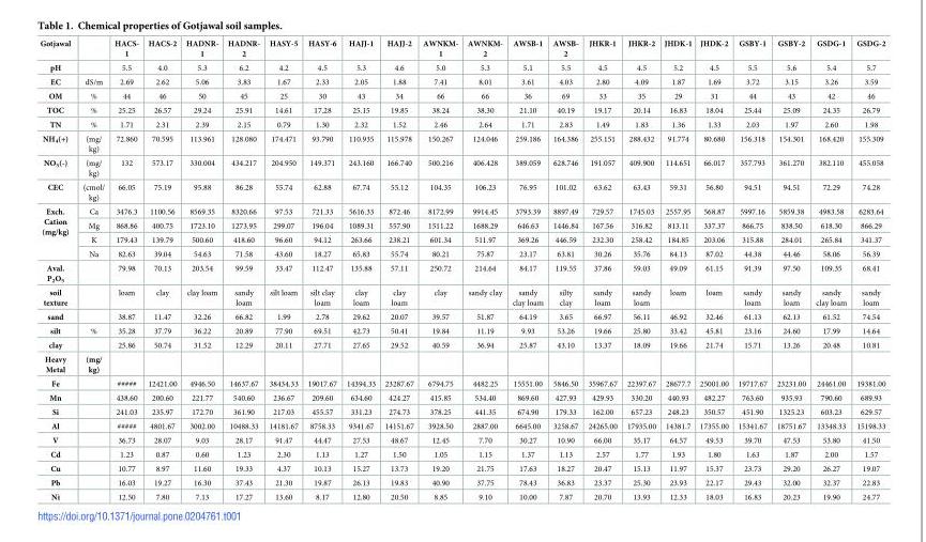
<table><thead><tr><td>Gotjawal</td><td></td><td>HACS- 1</td><td>HACS-2</td><td>HADNR- 1</td><td>HADNR- 2</td><td>HASY-5</td><td>HASY-6</td><td>HAJJ-1</td><td>HAJJ-2</td><td>AWNKM- 1</td><td>AWNKM- 2</td><td>AWSB-1</td><td>AWSB- 2</td><td>JHKR-1</td><td>JHKR-2</td><td>JHDK-1</td><td>JHDK-2</td><td>GSBY-1</td><td>GSBY-2</td><td>GSDG-1</td><td>GSDG-2</td></tr></thead><tbody><tr><td>pH</td><td></td><td>5.5</td><td>4.0</td><td>5.3</td><td>6.2</td><td>4.2</td><td>4.5</td><td>5.3</td><td>4.6</td><td>5.0</td><td>5.3</td><td>5.1</td><td>5.5</td><td>4.5</td><td>4.5</td><td>5.2</td><td>4.5</td><td>5.5</td><td>5.6</td><td>5.4</td><td>5.7</td></tr><tr><td>EC</td><td>dS/m</td><td>2.69</td><td>2.62</td><td>5.06</td><td>3.83</td><td>1.67</td><td>2.33</td><td>2.05</td><td>1.88</td><td>7.41</td><td>8.01</td><td>3.61</td><td>4.03</td><td>2.80</td><td>4.09</td><td>1.87</td><td>1.69</td><td>3.72</td><td>3.15</td><td>3.26</td><td>3.59</td></tr><tr><td>OM</td><td>%</td><td>44</td><td>46</td><td>50</td><td>45</td><td>25</td><td>30</td><td>43</td><td>34</td><td>66</td><td>66</td><td>36</td><td>69</td><td>33</td><td>35</td><td>29</td><td>31</td><td>44</td><td>43</td><td>42</td><td>46</td></tr><tr><td>TOC</td><td>%</td><td>25.25</td><td>26.57</td><td>29.24</td><td>25.91</td><td>14.61</td><td>17.28</td><td>25.15</td><td>19.85</td><td>38.24</td><td>38.30</td><td>21.10</td><td>40.19</td><td>19.17</td><td>20.14</td><td>16.83</td><td>18.04</td><td>25.44</td><td>25.09</td><td>24.35</td><td>26.79</td></tr><tr><td>TN</td><td>%</td><td>1.71</td><td>2.31</td><td>2.39</td><td>2.15</td><td>0.79</td><td>1.30</td><td>2.32</td><td>1.52</td><td>2.46</td><td>2.64</td><td>1.71</td><td>2.83</td><td>1.49</td><td>1.83</td><td>1.36</td><td>1.33</td><td>2.03</td><td>1.97</td><td>2.60</td><td>1.98</td></tr><tr><td>NH<sub>4</sub>(+)</td><td>(mg/ kg)</td><td>72.860</td><td>70.595</td><td>113.961</td><td>128.080</td><td>174.471</td><td>93.790</td><td>110.935</td><td>115.978</td><td>150.267</td><td>124.046</td><td>259.186</td><td>164.386</td><td>255.151</td><td>288.432</td><td>91.774</td><td>80.680</td><td>156.318</td><td>154.301</td><td>168.420</td><td>155.309</td></tr><tr><td>NO<sub>3</sub>(-)</td><td>(mg/ kg)</td><td>132</td><td>573.17</td><td>330.004</td><td>434.217</td><td>204.950</td><td>149.371</td><td>243.160</td><td>166.740</td><td>500.216</td><td>406.428</td><td>389.059</td><td>628.746</td><td>191.057</td><td>409.900</td><td>114.651</td><td>66.017</td><td>357.793</td><td>361.270</td><td>382.110</td><td>455.058</td></tr><tr><td>CEC</td><td>(cmol/ kg)</td><td>66.05</td><td>75.19</td><td>95.88</td><td>86.28</td><td>55.74</td><td>62.88</td><td>67.74</td><td>55.12</td><td>104.35</td><td>106.23</td><td>76.95</td><td>101.02</td><td>63.62</td><td>63.43</td><td>59.31</td><td>56.80</td><td>94.51</td><td>94.51</td><td>72.29</td><td>74.28</td></tr><tr><td rowspan="4">Exch. Cation (mg/kg)</td><td>Ca</td><td>3476.3</td><td>1100.56</td><td>8569.35</td><td>8320.66</td><td>97.53</td><td>721.33</td><td>5616.33</td><td>872.46</td><td>8172.99</td><td>9914.45</td><td>3793.39</td><td>8897.49</td><td>729.57</td><td>1745.03</td><td>2557.95</td><td>568.87</td><td>5997.16</td><td>5859.38</td><td>4983.58</td><td>6283.64</td></tr><tr><td>Mg</td><td>868.86</td><td>400.75</td><td>1723.10</td><td>1273.95</td><td>299.07</td><td>196.04</td><td>1089.31</td><td>557.90</td><td>1511.22</td><td>1688.29</td><td>646.63</td><td>1446.84</td><td>167.56</td><td>316.82</td><td>813.11</td><td>337.37</td><td>866.75</td><td>838.50</td><td>618.30</td><td>866.29</td></tr><tr><td>K</td><td>179.43</td><td>139.79</td><td>500.60</td><td>418.60</td><td>96.60</td><td>94.12</td><td>263.66</td><td>238.21</td><td>601.34</td><td>511.97</td><td>369.26</td><td>446.59</td><td>232.30</td><td>258.42</td><td>184.85</td><td>203.06</td><td>315.88</td><td>284.01</td><td>265.84</td><td>341.37</td></tr><tr><td>Na</td><td>82.63</td><td>39.04</td><td>54.63</td><td>71.58</td><td>43.60</td><td>18.27</td><td>65.83</td><td>55.74</td><td>80.21</td><td>75.87</td><td>23.17</td><td>63.81</td><td>30.26</td><td>35.76</td><td>84.13</td><td>87.02</td><td>44.38</td><td>44.46</td><td>58.06</td><td>56.39</td></tr><tr><td>Aval. P<sub>2</sub>O<sub>5</sub></td><td></td><td>79.98</td><td>70.13</td><td>203.54</td><td>99.59</td><td>33.47</td><td>112.47</td><td>135.88</td><td>57.11</td><td>250.72</td><td>214.64</td><td>84.17</td><td>119.55</td><td>37.86</td><td>59.03</td><td>49.09</td><td>61.15</td><td>91.39</td><td>97.50</td><td>109.35</td><td>68.41</td></tr><tr><td>soil texture</td><td></td><td>loam</td><td>clay</td><td>clay loam</td><td>sandy loam</td><td>silt loam</td><td>silt clay loam</td><td>clay loam</td><td>clay loam</td><td>clay</td><td>sandy clay</td><td>sandy clay loam</td><td>silty clay</td><td>sandy loam</td><td>sandy loam</td><td>loam</td><td>loam</td><td>sandy loam</td><td>sandy loam</td><td>sandy clay loam</td><td>sandy loam</td></tr><tr><td>sand</td><td></td><td>38.87</td><td>11.47</td><td>32.26</td><td>66.82</td><td>1.99</td><td>2.78</td><td>29.62</td><td>20.07</td><td>39.57</td><td>51.87</td><td>64.19</td><td>3.65</td><td>66.97</td><td>56.11</td><td>46.92</td><td>32.46</td><td>61.13</td><td>62.13</td><td>61.52</td><td>74.54</td></tr><tr><td>silt</td><td>%</td><td>35.28</td><td>37.79</td><td>36.22</td><td>20.89</td><td>77.90</td><td>69.51</td><td>42.73</td><td>50.41</td><td>19.84</td><td>11.19</td><td>9.93</td><td>53.26</td><td>19.66</td><td>25.80</td><td>33.42</td><td>45.81</td><td>23.16</td><td>24.60</td><td>17.99</td><td>14.64</td></tr><tr><td>clay</td><td></td><td>25.86</td><td>50.74</td><td>31.52</td><td>12.29</td><td>20.11</td><td>27.71</td><td>27.65</td><td>29.52</td><td>40.59</td><td>36.94</td><td>25.87</td><td>43.10</td><td>13.37</td><td>18.09</td><td>19.66</td><td>21.74</td><td>15.71</td><td>13.26</td><td>20.48</td><td>10.81</td></tr><tr><td>Heavy Metal</td><td>(mg/ kg)</td><td></td><td></td><td></td><td></td><td></td><td></td><td></td><td></td><td></td><td></td><td></td><td></td><td></td><td></td><td></td><td></td><td></td><td></td><td></td><td></td></tr><tr><td>Fe</td><td></td><td>#####</td><td>12421.00</td><td>4946.50</td><td>14637.67</td><td>38434.33</td><td>19017.67</td><td>14394.33</td><td>23287.67</td><td>6794.75</td><td>4482.25</td><td>15551.00</td><td>5846.50</td><td>35967.67</td><td>22397.67</td><td>28677.7</td><td>25001.00</td><td>19717.67</td><td>23231.00</td><td>24461.00</td><td>19381.00</td></tr><tr><td>Mn</td><td></td><td>438.60</td><td>200.60</td><td>221.77</td><td>540.60</td><td>236.67</td><td>209.60</td><td>634.60</td><td>424.27</td><td>415.85</td><td>534.40</td><td>869.60</td><td>427.93</td><td>429.93</td><td>330.20</td><td>440.93</td><td>482.27</td><td>763.60</td><td>935.93</td><td>790.60</td><td>689.93</td></tr><tr><td>Si</td><td></td><td>241.03</td><td>235.97</td><td>172.70</td><td>361.90</td><td>217.03</td><td>455.57</td><td>331.23</td><td>274.73</td><td>378.25</td><td>441.35</td><td>674.90</td><td>179.33</td><td>162.00</td><td>657.23</td><td>248.23</td><td>350.57</td><td>451.90</td><td>1325.23</td><td>603.23</td><td>629.57</td></tr><tr><td>Al</td><td></td><td>#####</td><td>4801.67</td><td>3002.00</td><td>10488.33</td><td>14181.67</td><td>8758.33</td><td>9341.67</td><td>14151.67</td><td>3928.50</td><td>2887.00</td><td>6645.00</td><td>3258.67</td><td>24265.00</td><td>17935.00</td><td>14381.7</td><td>17355.00</td><td>15341.67</td><td>18751.67</td><td>13348.33</td><td>15198.33</td></tr><tr><td>V</td><td></td><td>36.73</td><td>28.07</td><td>9.03</td><td>28.17</td><td>91.47</td><td>44.47</td><td>27.53</td><td>48.67</td><td>12.45</td><td>7.70</td><td>30.27</td><td>10.90</td><td>66.00</td><td>35.17</td><td>64.57</td><td>49.53</td><td>39.70</td><td>47.53</td><td>53.80</td><td>41.50</td></tr><tr><td>Cd</td><td></td><td>1.23</td><td>0.87</td><td>0.60</td><td>1.23</td><td>2.30</td><td>1.13</td><td>1.27</td><td>1.50</td><td>1.05</td><td>1.15</td><td>1.37</td><td>1.13</td><td>2.57</td><td>1.77</td><td>1.93</td><td>1.80</td><td>1.63</td><td>1.87</td><td>2.00</td><td>1.57</td></tr><tr><td>Cu</td><td></td><td>10.77</td><td>8.97</td><td>11.60</td><td>19.33</td><td>4.37</td><td>10.13</td><td>15.27</td><td>13.73</td><td>19.20</td><td>21.75</td><td>17.63</td><td>18.27</td><td>20.47</td><td>15.13</td><td>11.97</td><td>15.37</td><td>23.73</td><td>29.20</td><td>26.27</td><td>19.07</td></tr><tr><td>Pb</td><td></td><td>16.03</td><td>19.27</td><td>16.30</td><td>37.43</td><td>21.30</td><td>19.87</td><td>26.13</td><td>19.83</td><td>40.90</td><td>37.75</td><td>78.43</td><td>36.83</td><td>23.37</td><td>25.30</td><td>23.93</td><td>22.17</td><td>29.43</td><td>32.00</td><td>32.37</td><td>22.83</td></tr><tr><td>Ni</td><td></td><td>12.50</td><td>7.80</td><td>7.13</td><td>17.27</td><td>13.60</td><td>8.17</td><td>12.80</td><td>20.50</td><td>8.85</td><td>9.10</td><td>10.00</td><td>7.87</td><td>20.70</td><td>13.93</td><td>12.33</td><td>18.03</td><td>16.83</td><td>20.23</td><td>19.90</td><td>24.77</td></tr></tbody></table>